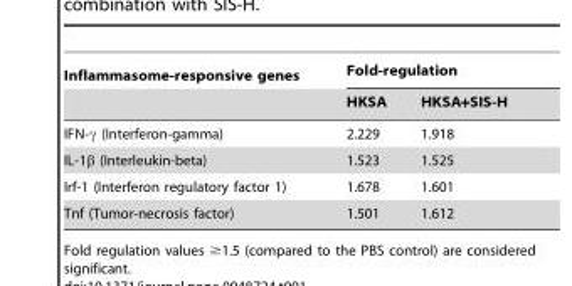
<table><thead><tr><td rowspan="2">Inflammasome-responsive genes</td><td colspan="2">Fold-regulation</td></tr><tr><td>HKSA</td><td>HKSA+SIS-H</td></tr></thead><tbody><tr><td>IFN-γ (Interferon-gamma)</td><td>2.229</td><td>1.918</td></tr><tr><td>IL-1β (Interleukin-beta)</td><td>1.523</td><td>1.525</td></tr><tr><td>Irf-1 (Interferon regulatory factor 1)</td><td>1.678</td><td>1.601</td></tr><tr><td>Tnf (Tumor-necrosis factor)</td><td>1.501</td><td>1.612</td></tr></tbody></table>